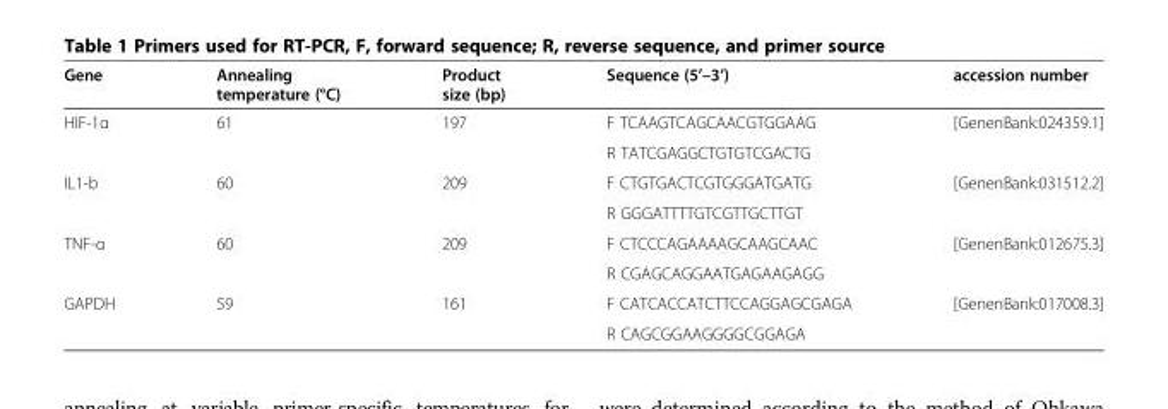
<table><thead><tr><td>Gene</td><td>Annealing temperature (°C)</td><td>Product size (bp)</td><td>Sequence (5’–3’)</td><td>accession number</td></tr></thead><tbody><tr><td rowspan="2">HIF-1α</td><td>61</td><td>197</td><td>F TCAAGTCAGCAACGTGGAAG</td><td>[GenenBank:024359.1]</td></tr><tr><td></td><td></td><td>R TATCGAGGCTGTGTCGACTG</td><td></td></tr><tr><td rowspan="2">IL1-b</td><td>60</td><td>209</td><td>F CTGTGACTCGTGGGATGATG</td><td>[GenenBank:031512.2]</td></tr><tr><td></td><td></td><td>R GGGATTTTGTCGTTGCTTGT</td><td></td></tr><tr><td rowspan="2">TNF-α</td><td>60</td><td>209</td><td>F CTCCCAGAAAAGCAAGCAAC</td><td>[GenenBank:012675.3]</td></tr><tr><td></td><td></td><td>R CGAGCAGGAATGAGAAGAGG</td><td></td></tr><tr><td rowspan="2">GAPDH</td><td>59</td><td>161</td><td>F CATCACCATCTTCCAGGAGCGAGA</td><td>[GenenBank:017008.3]</td></tr><tr><td></td><td></td><td>R CAGCGGAAGGGGCGGAGA</td><td></td></tr></tbody></table>